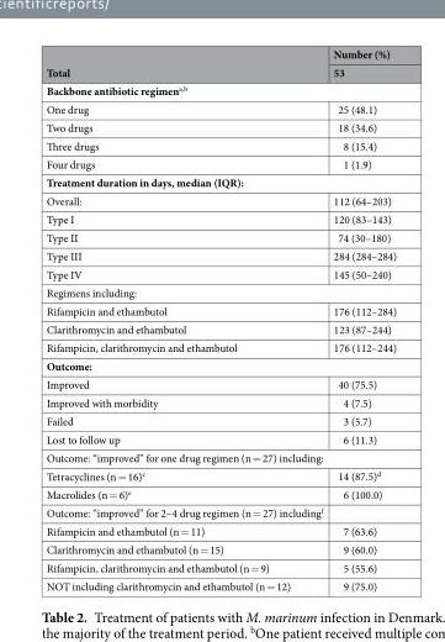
<table><thead><tr><td rowspan="2">Total</td><td rowspan="2">Number (%) 53</td></tr><tr></tr></thead><tbody><tr><td colspan="2">Backbone antibiotic regimen<sup>a,b</sup></td></tr><tr><td>One drug</td><td>25 (48.1)</td></tr><tr><td>Two drugs</td><td>18 (34.6)</td></tr><tr><td>Three drugs</td><td>8 (15.4)</td></tr><tr><td>Four drugs</td><td>1 (1.9)</td></tr><tr><td colspan="2">Treatment duration in days, median (IQR):</td></tr><tr><td>Overall:</td><td>112 (64–203)</td></tr><tr><td>Type I</td><td>120 (83–143)</td></tr><tr><td>Type II</td><td>74 (30–180)</td></tr><tr><td>Type III</td><td>284 (284–284)</td></tr><tr><td>Type IV</td><td>145 (50–240)</td></tr><tr><td colspan="2">Regimens including:</td></tr><tr><td>Rifampicin and ethambutol</td><td>176 (112–284)</td></tr><tr><td>Clarithromycin and ethambutol</td><td>123 (87–244)</td></tr><tr><td>Rifampicin, clarithromycin and ethambutol</td><td>176 (112–244)</td></tr><tr><td colspan="2">Outcome:</td></tr><tr><td>Improved</td><td>40 (75.5)</td></tr><tr><td>Improved with morbidity</td><td>4 (7.5)</td></tr><tr><td>Failed</td><td>3 (5.7)</td></tr><tr><td>Lost to follow up</td><td>6 (11.3)</td></tr><tr><td colspan="2">Outcome: “improved” for one drug regimen (n = 27) including:</td></tr><tr><td>Tetracyclines (n = 16)<sup>c</sup></td><td>14 (87.5)<sup>d</sup></td></tr><tr><td>Macrolides (n = 6)<sup>e</sup></td><td>6 (100.0)</td></tr><tr><td colspan="2">Outcome: “improved” for 2–4 drug regimen (n = 27) including<sup>f</sup></td></tr><tr><td>Rifampicin and ethambutol (n = 11)</td><td>7 (63.6)</td></tr><tr><td>Clarithromycin and ethambutol (n = 15)</td><td>9 (60.0)</td></tr><tr><td>Rifampicin, clarithromycin and ethambutol (n = 9)</td><td>5 (55.6)</td></tr><tr><td>NOT including clarithromycin and ethambutol (n = 12)</td><td>9 (75.0)</td></tr></tbody></table>